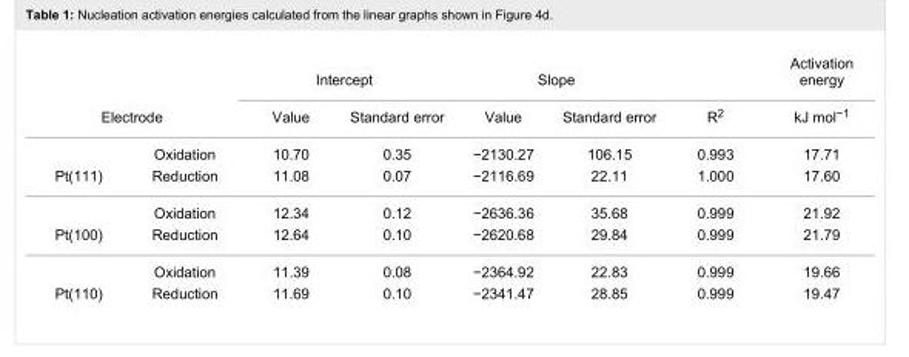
<table><thead><tr><td></td><td></td><td colspan="2">Intercept</td><td colspan="2">Slope</td><td rowspan="2">R<sup>2</sup></td><td rowspan="2">Activation energy kJ mol<sup>−1</sup></td></tr><tr><td colspan="2">Electrode</td><td>Value</td><td>Standard error</td><td>Value</td><td>Standard error</td></tr></thead><tbody><tr><td rowspan="2">Pt(111)</td><td>Oxidation</td><td>10.70</td><td>0.35</td><td>−2130.27</td><td>106.15</td><td>0.993</td><td>17.71</td></tr><tr><td>Reduction</td><td>11.08</td><td>0.07</td><td>−2116.69</td><td>22.11</td><td>1.000</td><td>17.60</td></tr><tr><td rowspan="2">Pt(100)</td><td>Oxidation</td><td>12.34</td><td>0.12</td><td>−2636.36</td><td>35.68</td><td>0.999</td><td>21.92</td></tr><tr><td>Reduction</td><td>12.64</td><td>0.10</td><td>−2620.68</td><td>29.84</td><td>0.999</td><td>21.79</td></tr><tr><td rowspan="2">Pt(110)</td><td>Oxidation</td><td>11.39</td><td>0.08</td><td>−2364.92</td><td>22.83</td><td>0.999</td><td>19.66</td></tr><tr><td>Reduction</td><td>11.69</td><td>0.10</td><td>−2341.47</td><td>28.85</td><td>0.999</td><td>19.47</td></tr></tbody></table>